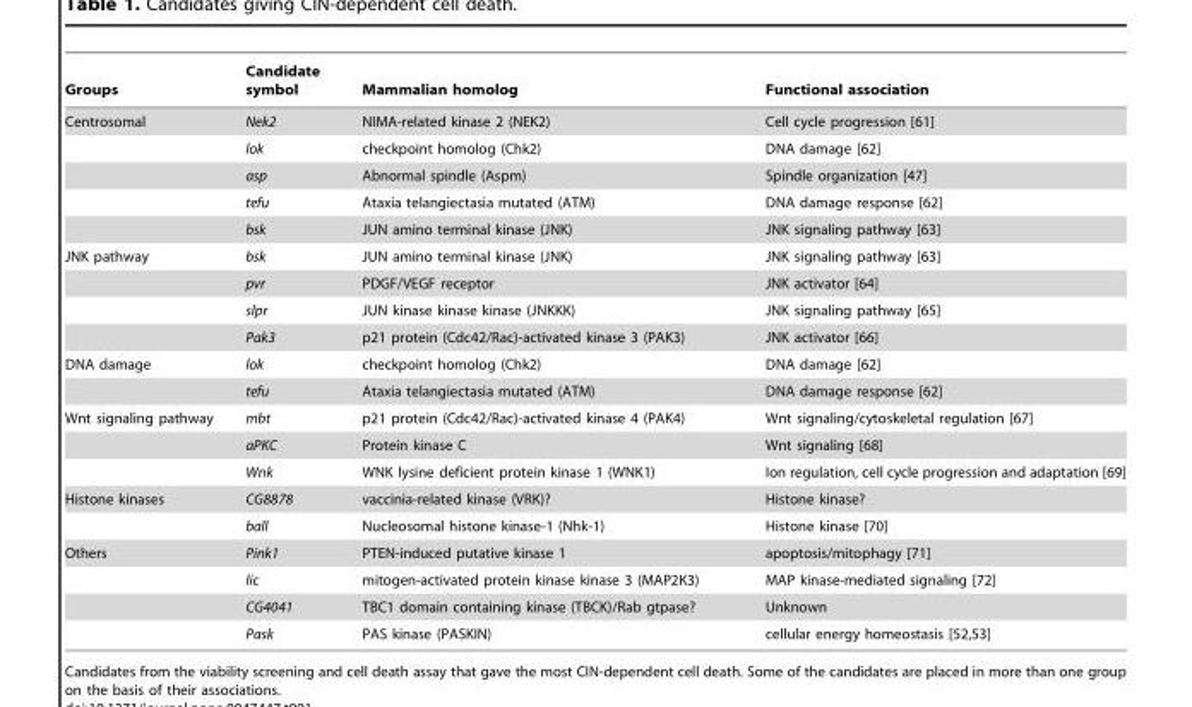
<table><thead><tr><td>Groups</td><td>Candidate symbol</td><td>Mammalian homolog</td><td>Functional association</td></tr></thead><tbody><tr><td rowspan="5">Centrosomal</td><td>Nek2</td><td>NIMA-related kinase 2 (NEK2)</td><td>Cell cycle progression [61]</td></tr><tr><td>lok</td><td>checkpoint homolog (Chk2)</td><td>DNA damage [62]</td></tr><tr><td>asp</td><td>Abnormal spindle (Aspm)</td><td>Spindle organization [47]</td></tr><tr><td>tefu</td><td>Ataxia telangiectasia mutated (ATM)</td><td>DNA damage response [62]</td></tr><tr><td>bsk</td><td>JUN amino terminal kinase (JNK)</td><td>JNK signaling pathway [63]</td></tr><tr><td rowspan="4">JNK pathway</td><td>bsk</td><td>JUN amino terminal kinase (JNK)</td><td>JNK signaling pathway [63]</td></tr><tr><td>pvr</td><td>PDGF/VEGF receptor</td><td>JNK activator [64]</td></tr><tr><td>slpr</td><td>JUN kinase kinase kinase (JNKKK)</td><td>JNK signaling pathway [65]</td></tr><tr><td>Pak3</td><td>p21 protein (Cdc42/Rac)-activated kinase 3 (PAK3)</td><td>JNK activator [66]</td></tr><tr><td rowspan="2">DNA damage</td><td>lok</td><td>checkpoint homolog (Chk2)</td><td>DNA damage [62]</td></tr><tr><td>tefu</td><td>Ataxia telangiectasia mutated (ATM)</td><td>DNA damage response [62]</td></tr><tr><td rowspan="3">Wnt signaling pathway</td><td>mbt</td><td>p21 protein (Cdc42/Rac)-activated kinase 4 (PAK4)</td><td>Wnt signaling/cytoskeletal regulation [67]</td></tr><tr><td>aPKC</td><td>Protein kinase C</td><td>Wnt signaling [68]</td></tr><tr><td>Wnk</td><td>WNK lysine deficient protein kinase 1 (WNK1)</td><td>Ion regulation, cell cycle progression and adaptation [69]</td></tr><tr><td rowspan="2">Histone kinases</td><td>CG8878</td><td>vaccinia-related kinase (VRK)?</td><td>Histone kinase?</td></tr><tr><td>ball</td><td>Nucleosomal histone kinase-1 (Nhk-1)</td><td>Histone kinase [70]</td></tr><tr><td rowspan="4">Others</td><td>Pink1</td><td>PTEN-induced putative kinase 1</td><td>apoptosis/mitophagy [71]</td></tr><tr><td>lic</td><td>mitogen-activated protein kinase kinase 3 (MAP2K3)</td><td>MAP kinase-mediated signaling [72]</td></tr><tr><td>CG4041</td><td>TBC1 domain containing kinase (TBCK)/Rab gtpase?</td><td>Unknown</td></tr><tr><td>Pask</td><td>PAS kinase (PASKIN)</td><td>cellular energy homeostasis [52,53]</td></tr></tbody></table>